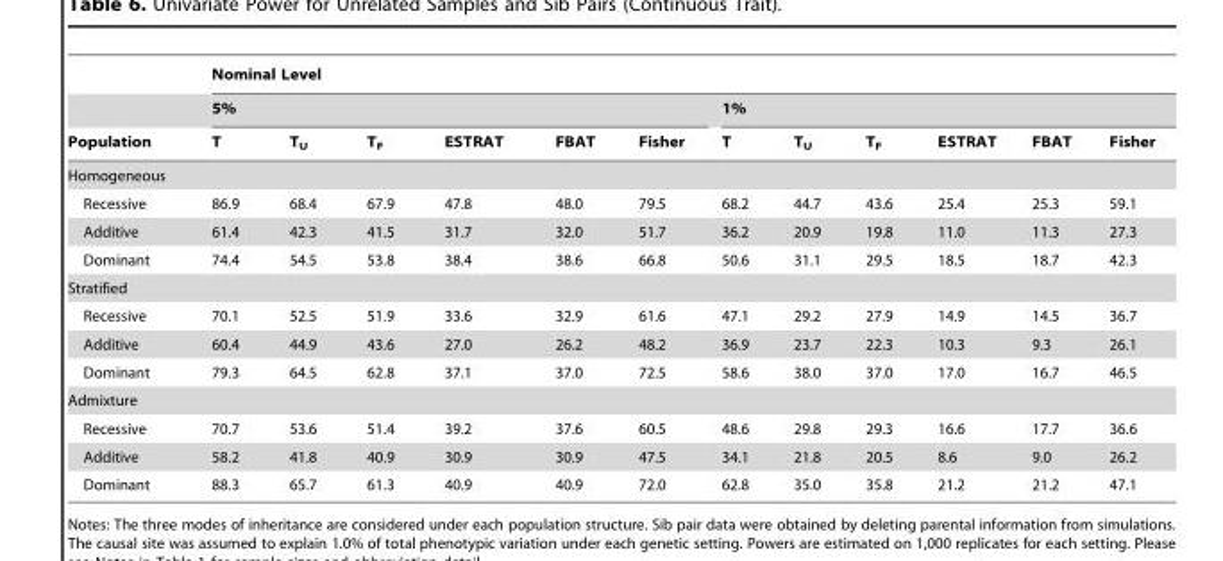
<table><thead><tr><td rowspan="3">Population</td><td colspan="12">Nominal Level</td></tr><tr><td colspan="6">5%</td><td colspan="6">1%</td></tr><tr><td>T</td><td>T<sub>U</sub></td><td>T<sub>F</sub></td><td>ESTRAT</td><td>FBAT</td><td>Fisher</td><td>T</td><td>T<sub>U</sub></td><td>T<sub>F</sub></td><td>ESTRAT</td><td>FBAT</td><td>Fisher</td></tr></thead><tbody><tr><td colspan="13">Homogeneous</td></tr><tr><td>Recessive</td><td>86.9</td><td>68.4</td><td>67.9</td><td>47.8</td><td>48.0</td><td>79.5</td><td>68.2</td><td>44.7</td><td>43.6</td><td>25.4</td><td>25.3</td><td>59.1</td></tr><tr><td>Additive</td><td>61.4</td><td>42.3</td><td>41.5</td><td>31.7</td><td>32.0</td><td>51.7</td><td>36.2</td><td>20.9</td><td>19.8</td><td>11.0</td><td>11.3</td><td>27.3</td></tr><tr><td>Dominant</td><td>74.4</td><td>54.5</td><td>53.8</td><td>38.4</td><td>38.6</td><td>66.8</td><td>50.6</td><td>31.1</td><td>29.5</td><td>18.5</td><td>18.7</td><td>42.3</td></tr><tr><td colspan="13">Stratified</td></tr><tr><td>Recessive</td><td>70.1</td><td>52.5</td><td>51.9</td><td>33.6</td><td>32.9</td><td>61.6</td><td>47.1</td><td>29.2</td><td>27.9</td><td>14.9</td><td>14.5</td><td>36.7</td></tr><tr><td>Additive</td><td>60.4</td><td>44.9</td><td>43.6</td><td>27.0</td><td>26.2</td><td>48.2</td><td>36.9</td><td>23.7</td><td>22.3</td><td>10.3</td><td>9.3</td><td>26.1</td></tr><tr><td>Dominant</td><td>79.3</td><td>64.5</td><td>62.8</td><td>37.1</td><td>37.0</td><td>72.5</td><td>58.6</td><td>38.0</td><td>37.0</td><td>17.0</td><td>16.7</td><td>46.5</td></tr><tr><td colspan="13">Admixture</td></tr><tr><td>Recessive</td><td>70.7</td><td>53.6</td><td>51.4</td><td>39.2</td><td>37.6</td><td>60.5</td><td>48.6</td><td>29.8</td><td>29.3</td><td>16.6</td><td>17.7</td><td>36.6</td></tr><tr><td>Additive</td><td>58.2</td><td>41.8</td><td>40.9</td><td>30.9</td><td>30.9</td><td>47.5</td><td>34.1</td><td>21.8</td><td>20.5</td><td>8.6</td><td>9.0</td><td>26.2</td></tr><tr><td>Dominant</td><td>88.3</td><td>65.7</td><td>61.3</td><td>40.9</td><td>40.9</td><td>72.0</td><td>62.8</td><td>35.0</td><td>35.8</td><td>21.2</td><td>21.2</td><td>47.1</td></tr></tbody></table>